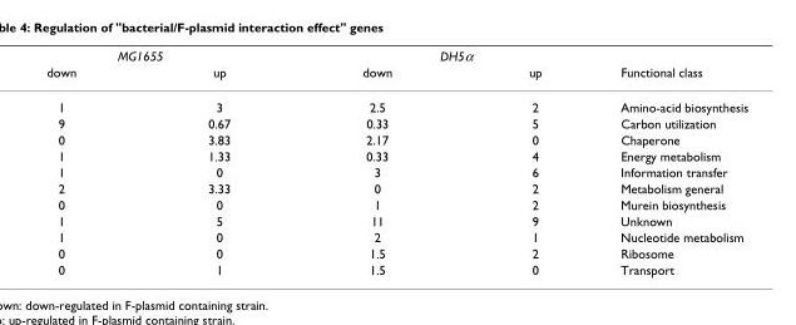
<table><thead><tr><td colspan="2">MG1655</td><td colspan="2">DH5α</td><td rowspan="2">Functional class</td></tr><tr><td>down</td><td>up</td><td>down</td><td>up</td></tr></thead><tbody><tr><td>1</td><td>3</td><td>2.5</td><td>2</td><td>Amino-acid biosynthesis</td></tr><tr><td>9</td><td>0.67</td><td>0.33</td><td>5</td><td>Carbon utilization</td></tr><tr><td>0</td><td>3.83</td><td>2.17</td><td>0</td><td>Chaperone</td></tr><tr><td>1</td><td>1.33</td><td>0.33</td><td>4</td><td>Energy metabolism</td></tr><tr><td>1</td><td>0</td><td>3</td><td>6</td><td>Information transfer</td></tr><tr><td>2</td><td>3.33</td><td>0</td><td>2</td><td>Metabolism general</td></tr><tr><td>0</td><td>0</td><td>1</td><td>2</td><td>Murein biosynthesis</td></tr><tr><td>1</td><td>5</td><td>11</td><td>9</td><td>Unknown</td></tr><tr><td>1</td><td>0</td><td>2</td><td>1</td><td>Nucleotide metabolism</td></tr><tr><td>0</td><td>0</td><td>1.5</td><td>2</td><td>Ribosome</td></tr><tr><td>0</td><td>1</td><td>1.5</td><td>0</td><td>Transport</td></tr></tbody></table>